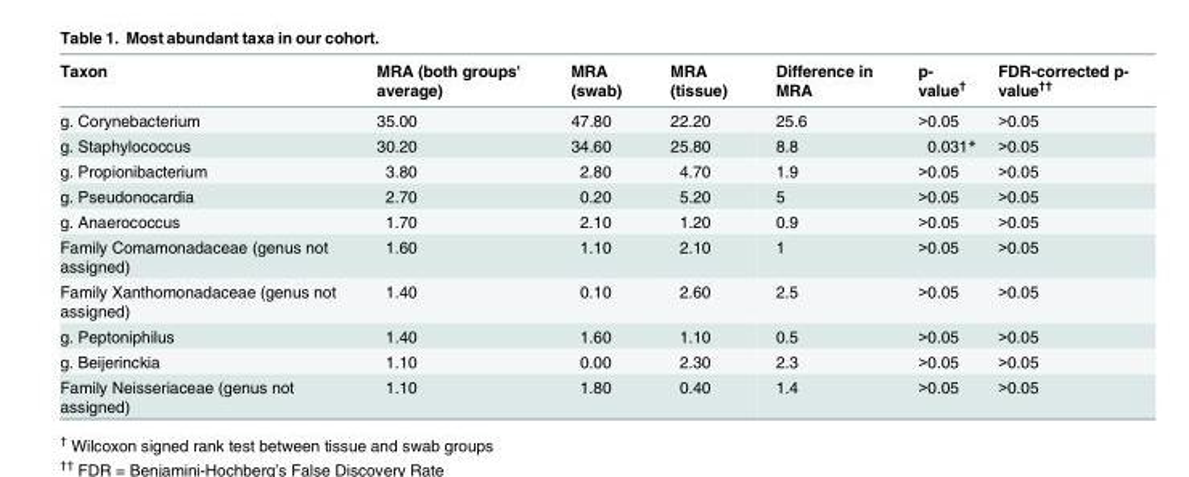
<table><thead><tr><td>Taxon</td><td>MRA (both groups&#x27; average)</td><td>MRA (swab)</td><td>MRA (tissue)</td><td>Difference in MRA</td><td>p- value<sup>†</sup></td><td>FDR-corrected p- value<sup>††</sup></td></tr></thead><tbody><tr><td>g. Corynebacterium</td><td>35.00</td><td>47.80</td><td>22.20</td><td>25.6</td><td>&gt;0.05</td><td>&gt;0.05</td></tr><tr><td>g. Staphylococcus</td><td>30.20</td><td>34.60</td><td>25.80</td><td>8.8</td><td>0.031*</td><td>&gt;0.05</td></tr><tr><td>g. Propionibacterium</td><td>3.80</td><td>2.80</td><td>4.70</td><td>1.9</td><td>&gt;0.05</td><td>&gt;0.05</td></tr><tr><td>g. Pseudonocardia</td><td>2.70</td><td>0.20</td><td>5.20</td><td>5</td><td>&gt;0.05</td><td>&gt;0.05</td></tr><tr><td>g. Anaerococcus</td><td>1.70</td><td>2.10</td><td>1.20</td><td>0.9</td><td>&gt;0.05</td><td>&gt;0.05</td></tr><tr><td>Family Comamonadaceae (genus not assigned)</td><td>1.60</td><td>1.10</td><td>2.10</td><td>1</td><td>&gt;0.05</td><td>&gt;0.05</td></tr><tr><td>Family Xanthomonadaceae (genus not assigned)</td><td>1.40</td><td>0.10</td><td>2.60</td><td>2.5</td><td>&gt;0.05</td><td>&gt;0.05</td></tr><tr><td>g. Peptoniphilus</td><td>1.40</td><td>1.60</td><td>1.10</td><td>0.5</td><td>&gt;0.05</td><td>&gt;0.05</td></tr><tr><td>g. Beijerinckia</td><td>1.10</td><td>0.00</td><td>2.30</td><td>2.3</td><td>&gt;0.05</td><td>&gt;0.05</td></tr><tr><td>Family Neisseriaceae (genus not assigned)</td><td>1.10</td><td>1.80</td><td>0.40</td><td>1.4</td><td>&gt;0.05</td><td>&gt;0.05</td></tr></tbody></table>